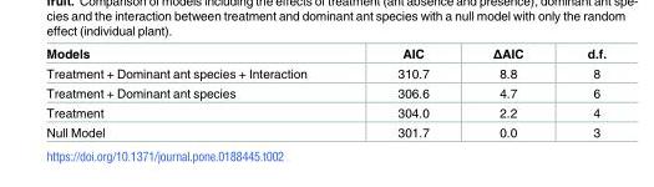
<table><thead><tr><td>Models</td><td>AIC</td><td>ΔAIC</td><td>d.f.</td></tr></thead><tbody><tr><td>Treatment + Dominant ant species + Interaction</td><td>310.7</td><td>8.8</td><td>8</td></tr><tr><td>Treatment + Dominant ant species</td><td>306.6</td><td>4.7</td><td>6</td></tr><tr><td>Treatment</td><td>304.0</td><td>2.2</td><td>4</td></tr><tr><td>Null Model</td><td>301.7</td><td>0.0</td><td>3</td></tr></tbody></table>